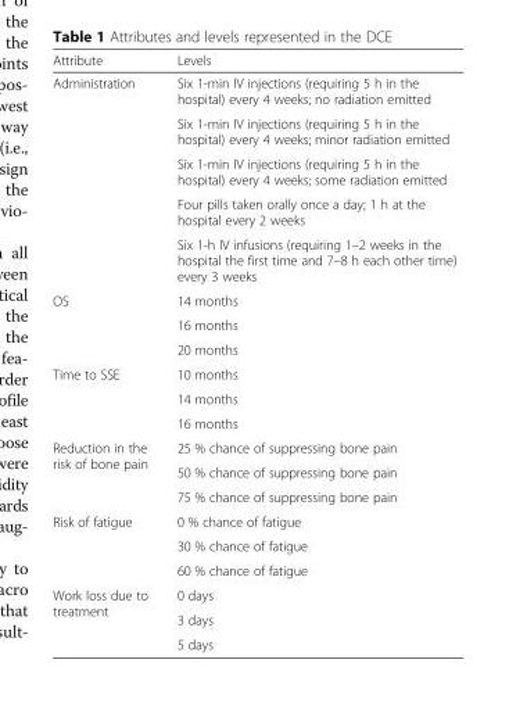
<table><thead><tr><td>Attribute</td><td>Levels</td></tr></thead><tbody><tr><td rowspan="5">Administration</td><td>Six 1-min IV injections (requiring 5 h in the hospital) every 4 weeks; no radiation emitted</td></tr><tr><td>Six 1-min IV injections (requiring 5 h in the hospital) every 4 weeks; minor radiation emitted</td></tr><tr><td>Six 1-min IV injections (requiring 5 h in the hospital) every 4 weeks; some radiation emitted</td></tr><tr><td>Four pills taken orally once a day; 1 h at the hospital every 2 weeks</td></tr><tr><td>Six 1-h IV infusions (requiring 1–2 weeks in the hospital the first time and 7–8 h each other time) every 3 weeks</td></tr><tr><td rowspan="3">OS</td><td>14 months</td></tr><tr><td>16 months</td></tr><tr><td>20 months</td></tr><tr><td rowspan="3">Time to SSE</td><td>10 months</td></tr><tr><td>14 months</td></tr><tr><td>16 months</td></tr><tr><td rowspan="3">Reduction in the risk of bone pain</td><td>25 % chance of suppressing bone pain</td></tr><tr><td>50 % chance of suppressing bone pain</td></tr><tr><td>75 % chance of suppressing bone pain</td></tr><tr><td rowspan="3">Risk of fatigue</td><td>0 % chance of fatigue</td></tr><tr><td>30 % chance of fatigue</td></tr><tr><td>60 % chance of fatigue</td></tr><tr><td rowspan="3">Work loss due to treatment</td><td>0 days</td></tr><tr><td>3 days</td></tr><tr><td>5 days</td></tr></tbody></table>